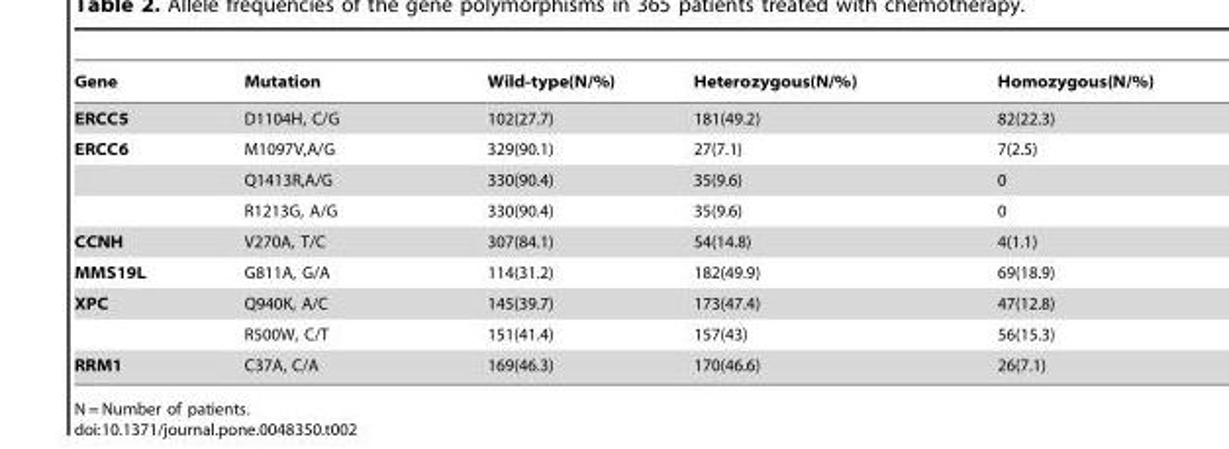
<table><thead><tr><td>Gene</td><td>Mutation</td><td>Wild-type(N/%)</td><td>Heterozygous(N/%)</td><td>Homozygous(N/%)</td></tr></thead><tbody><tr><td>ERCC5</td><td>D1104H, C/G</td><td>102(27.7)</td><td>181(49.2)</td><td>82(22.3)</td></tr><tr><td rowspan="3">ERCC6</td><td>M1097V,A/G</td><td>329(90.1)</td><td>27(7.1)</td><td>7(2.5)</td></tr><tr><td>Q1413R,A/G</td><td>330(90.4)</td><td>35(9.6)</td><td>0</td></tr><tr><td>R1213G, A/G</td><td>330(90.4)</td><td>35(9.6)</td><td>0</td></tr><tr><td>CCNH</td><td>V270A, T/C</td><td>307(84.1)</td><td>54(14.8)</td><td>4(1.1)</td></tr><tr><td>MMS19L</td><td>G811A, G/A</td><td>114(31.2)</td><td>182(49.9)</td><td>69(18.9)</td></tr><tr><td rowspan="2">XPC</td><td>Q940K, A/C</td><td>145(39.7)</td><td>173(47.4)</td><td>47(12.8)</td></tr><tr><td>R500W, C/T</td><td>151(41.4)</td><td>157(43)</td><td>56(15.3)</td></tr><tr><td>RRM1</td><td>C37A, C/A</td><td>169(46.3)</td><td>170(46.6)</td><td>26(7.1)</td></tr></tbody></table>